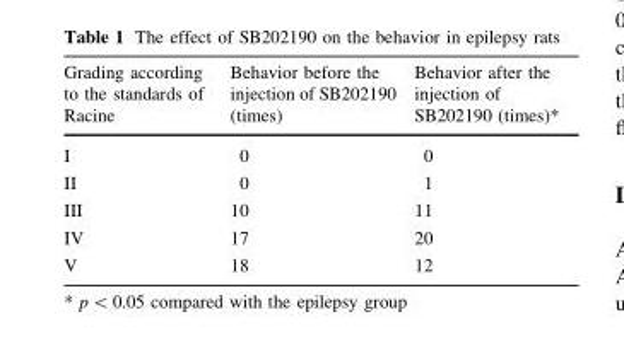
<table><thead><tr><td>Grading according to the standards of Racine</td><td>Behavior before the injection of SB202190 (times)</td><td>Behavior after the injection of SB202190 (times)*</td></tr></thead><tbody><tr><td>I</td><td>0</td><td>0</td></tr><tr><td>II</td><td>0</td><td>1</td></tr><tr><td>III</td><td>10</td><td>11</td></tr><tr><td>IV</td><td>17</td><td>20</td></tr><tr><td>V</td><td>18</td><td>12</td></tr></tbody></table>